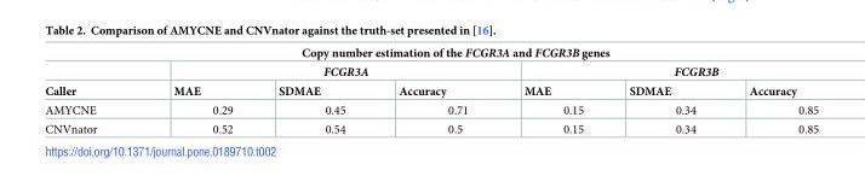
<table><thead><tr><td colspan="7">Copy number estimation of the FCGR3A and FCGR3B genes</td></tr><tr><td rowspan="2">Caller</td><td colspan="3">FCGR3A</td><td colspan="3">FCGR3B</td></tr><tr><td>MAE</td><td>SDMAE</td><td>Accuracy</td><td>MAE</td><td>SDMAE</td><td>Accuracy</td></tr></thead><tbody><tr><td>AMYCNE</td><td>0.29</td><td>0.45</td><td>0.71</td><td>0.15</td><td>0.34</td><td>0.85</td></tr><tr><td>CNVnator</td><td>0.52</td><td>0.54</td><td>0.5</td><td>0.15</td><td>0.34</td><td>0.85</td></tr></tbody></table>